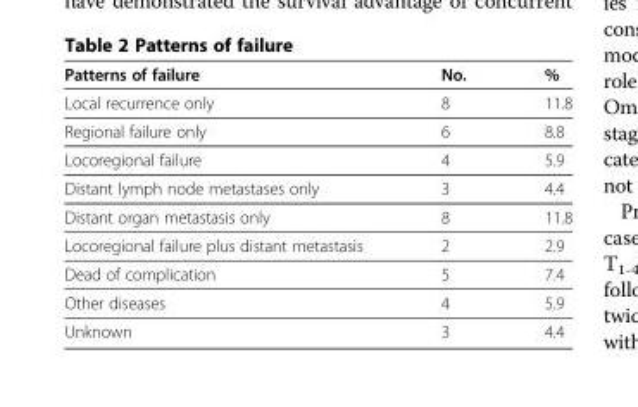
<table><thead><tr><td>Patterns of failure</td><td>No.</td><td>%</td></tr></thead><tbody><tr><td>Local recurrence only</td><td>8</td><td>11.8</td></tr><tr><td>Regional failure only</td><td>6</td><td>8.8</td></tr><tr><td>Locoregional failure</td><td>4</td><td>5.9</td></tr><tr><td>Distant lymph node metastases only</td><td>3</td><td>4.4</td></tr><tr><td>Distant organ metastasis only</td><td>8</td><td>11.8</td></tr><tr><td>Locoregional failure plus distant metastasis</td><td>2</td><td>2.9</td></tr><tr><td>Dead of complication</td><td>5</td><td>7.4</td></tr><tr><td>Other diseases</td><td>4</td><td>5.9</td></tr><tr><td>Unknown</td><td>3</td><td>4.4</td></tr></tbody></table>